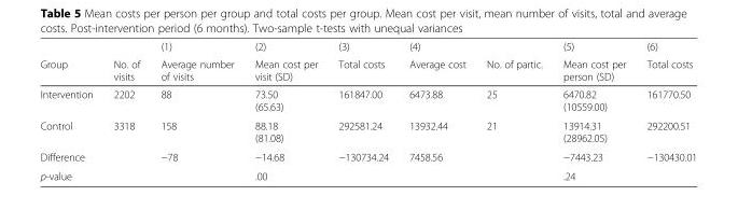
<table><thead><tr><td rowspan="2">Group</td><td rowspan="2">No. of visits</td><td rowspan="2">(1) Average number of visits</td><td rowspan="2">(2) Mean cost per visit (SD)</td><td rowspan="2">(3) Total costs</td><td rowspan="2">(4) Average cost</td><td rowspan="2">No. of partic.</td><td rowspan="2">(5) Mean cost per person (SD)</td><td rowspan="2">(6) Total costs</td></tr><tr></tr></thead><tbody><tr><td>Intervention</td><td>2202</td><td>88</td><td>73.50 (65.63)</td><td>161847.00</td><td>6473.88</td><td>25</td><td>6470.82 (10559.00)</td><td>161770.50</td></tr><tr><td>Control</td><td>3318</td><td>158</td><td>88.18 (81.08)</td><td>292581.24</td><td>13932.44</td><td>21</td><td>13914.31 (28962.05)</td><td>292200.51</td></tr><tr><td>Difference</td><td></td><td>−78</td><td>−14.68</td><td>−130734.24</td><td>7458.56</td><td></td><td>−7443.23</td><td>−130430.01</td></tr><tr><td>p-value</td><td></td><td></td><td>.00</td><td></td><td></td><td></td><td>.24</td><td></td></tr></tbody></table>